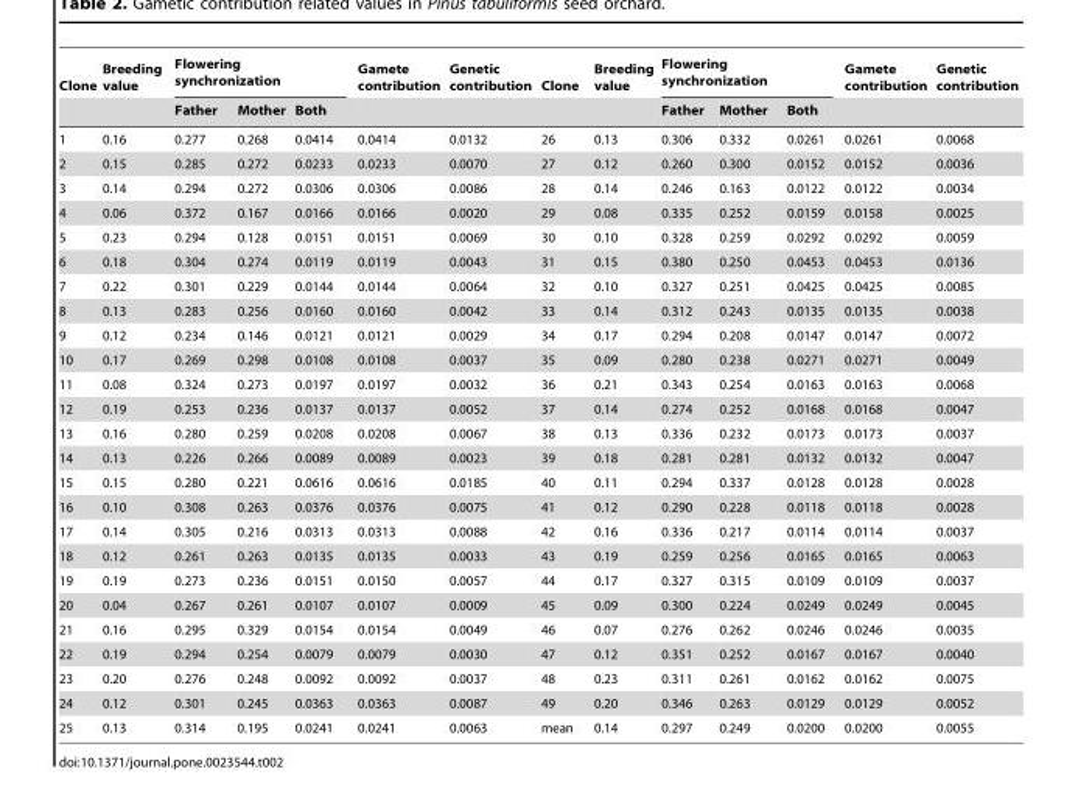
<table><thead><tr><td rowspan="2">Clone</td><td rowspan="2">Breeding value</td><td colspan="3">Flowering synchronization</td><td rowspan="2">Gamete contribution</td><td rowspan="2">Genetic contribution</td><td rowspan="2">Clone</td><td rowspan="2">Breeding value</td><td colspan="3">Flowering synchronization</td><td rowspan="2">Gamete contribution</td><td rowspan="2">Genetic contribution</td></tr><tr><td>Father</td><td>Mother</td><td>Both</td><td>Father</td><td>Mother</td><td>Both</td></tr></thead><tbody><tr><td>1</td><td>0.16</td><td>0.277</td><td>0.268</td><td>0.0414</td><td>0.0414</td><td>0.0132</td><td>26</td><td>0.13</td><td>0.306</td><td>0.332</td><td>0.0261</td><td>0.0261</td><td>0.0068</td></tr><tr><td>2</td><td>0.15</td><td>0.285</td><td>0.272</td><td>0.0233</td><td>0.0233</td><td>0.0070</td><td>27</td><td>0.12</td><td>0.260</td><td>0.300</td><td>0.0152</td><td>0.0152</td><td>0.0036</td></tr><tr><td>3</td><td>0.14</td><td>0.294</td><td>0.272</td><td>0.0306</td><td>0.0306</td><td>0.0086</td><td>28</td><td>0.14</td><td>0.246</td><td>0.163</td><td>0.0122</td><td>0.0122</td><td>0.0034</td></tr><tr><td>4</td><td>0.06</td><td>0.372</td><td>0.167</td><td>0.0166</td><td>0.0166</td><td>0.0020</td><td>29</td><td>0.08</td><td>0.335</td><td>0.252</td><td>0.0159</td><td>0.0158</td><td>0.0025</td></tr><tr><td>5</td><td>0.23</td><td>0.294</td><td>0.128</td><td>0.0151</td><td>0.0151</td><td>0.0069</td><td>30</td><td>0.10</td><td>0.328</td><td>0.259</td><td>0.0292</td><td>0.0292</td><td>0.0059</td></tr><tr><td>6</td><td>0.18</td><td>0.304</td><td>0.274</td><td>0.0119</td><td>0.0119</td><td>0.0043</td><td>31</td><td>0.15</td><td>0.380</td><td>0.250</td><td>0.0453</td><td>0.0453</td><td>0.0136</td></tr><tr><td>7</td><td>0.22</td><td>0.301</td><td>0.229</td><td>0.0144</td><td>0.0144</td><td>0.0064</td><td>32</td><td>0.10</td><td>0.327</td><td>0.251</td><td>0.0425</td><td>0.0425</td><td>0.0085</td></tr><tr><td>8</td><td>0.13</td><td>0.283</td><td>0.256</td><td>0.0160</td><td>0.0160</td><td>0.0042</td><td>33</td><td>0.14</td><td>0.312</td><td>0.243</td><td>0.0135</td><td>0.0135</td><td>0.0038</td></tr><tr><td>9</td><td>0.12</td><td>0.234</td><td>0.146</td><td>0.0121</td><td>0.0121</td><td>0.0029</td><td>34</td><td>0.17</td><td>0.294</td><td>0.208</td><td>0.0147</td><td>0.0147</td><td>0.0072</td></tr><tr><td>10</td><td>0.17</td><td>0.269</td><td>0.298</td><td>0.0108</td><td>0.0108</td><td>0.0037</td><td>35</td><td>0.09</td><td>0.280</td><td>0.238</td><td>0.0271</td><td>0.0271</td><td>0.0049</td></tr><tr><td>11</td><td>0.08</td><td>0.324</td><td>0.273</td><td>0.0197</td><td>0.0197</td><td>0.0032</td><td>36</td><td>0.21</td><td>0.343</td><td>0.254</td><td>0.0163</td><td>0.0163</td><td>0.0068</td></tr><tr><td>12</td><td>0.19</td><td>0.253</td><td>0.236</td><td>0.0137</td><td>0.0137</td><td>0.0052</td><td>37</td><td>0.14</td><td>0.274</td><td>0.252</td><td>0.0168</td><td>0.0168</td><td>0.0047</td></tr><tr><td>13</td><td>0.16</td><td>0.280</td><td>0.259</td><td>0.0208</td><td>0.0208</td><td>0.0067</td><td>38</td><td>0.13</td><td>0.336</td><td>0.232</td><td>0.0173</td><td>0.0173</td><td>0.0037</td></tr><tr><td>14</td><td>0.13</td><td>0.226</td><td>0.266</td><td>0.0089</td><td>0.0089</td><td>0.0023</td><td>39</td><td>0.18</td><td>0.281</td><td>0.281</td><td>0.0132</td><td>0.0132</td><td>0.0047</td></tr><tr><td>15</td><td>0.15</td><td>0.280</td><td>0.221</td><td>0.0616</td><td>0.0616</td><td>0.0185</td><td>40</td><td>0.11</td><td>0.294</td><td>0.337</td><td>0.0128</td><td>0.0128</td><td>0.0028</td></tr><tr><td>16</td><td>0.10</td><td>0.308</td><td>0.263</td><td>0.0376</td><td>0.0376</td><td>0.0075</td><td>41</td><td>0.12</td><td>0.290</td><td>0.228</td><td>0.0118</td><td>0.0118</td><td>0.0028</td></tr><tr><td>17</td><td>0.14</td><td>0.305</td><td>0.216</td><td>0.0313</td><td>0.0313</td><td>0.0088</td><td>42</td><td>0.16</td><td>0.336</td><td>0.217</td><td>0.0114</td><td>0.0114</td><td>0.0037</td></tr><tr><td>18</td><td>0.12</td><td>0.261</td><td>0.263</td><td>0.0135</td><td>0.0135</td><td>0.0033</td><td>43</td><td>0.19</td><td>0.259</td><td>0.256</td><td>0.0165</td><td>0.0165</td><td>0.0063</td></tr><tr><td>19</td><td>0.19</td><td>0.273</td><td>0.236</td><td>0.0151</td><td>0.0150</td><td>0.0057</td><td>44</td><td>0.17</td><td>0.327</td><td>0.315</td><td>0.0109</td><td>0.0109</td><td>0.0037</td></tr><tr><td>20</td><td>0.04</td><td>0.267</td><td>0.261</td><td>0.0107</td><td>0.0107</td><td>0.0009</td><td>45</td><td>0.09</td><td>0.300</td><td>0.224</td><td>0.0249</td><td>0.0249</td><td>0.0045</td></tr><tr><td>21</td><td>0.16</td><td>0.295</td><td>0.329</td><td>0.0154</td><td>0.0154</td><td>0.0049</td><td>46</td><td>0.07</td><td>0.276</td><td>0.262</td><td>0.0246</td><td>0.0246</td><td>0.0035</td></tr><tr><td>22</td><td>0.19</td><td>0.294</td><td>0.254</td><td>0.0079</td><td>0.0079</td><td>0.0030</td><td>47</td><td>0.12</td><td>0.351</td><td>0.252</td><td>0.0167</td><td>0.0167</td><td>0.0040</td></tr><tr><td>23</td><td>0.20</td><td>0.276</td><td>0.248</td><td>0.0092</td><td>0.0092</td><td>0.0037</td><td>48</td><td>0.23</td><td>0.311</td><td>0.261</td><td>0.0162</td><td>0.0162</td><td>0.0075</td></tr><tr><td>24</td><td>0.12</td><td>0.301</td><td>0.245</td><td>0.0363</td><td>0.0363</td><td>0.0087</td><td>49</td><td>0.20</td><td>0.346</td><td>0.263</td><td>0.0129</td><td>0.0129</td><td>0.0052</td></tr><tr><td>25</td><td>0.13</td><td>0.314</td><td>0.195</td><td>0.0241</td><td>0.0241</td><td>0.0063</td><td>mean</td><td>0.14</td><td>0.297</td><td>0.249</td><td>0.0200</td><td>0.0200</td><td>0.0055</td></tr></tbody></table>